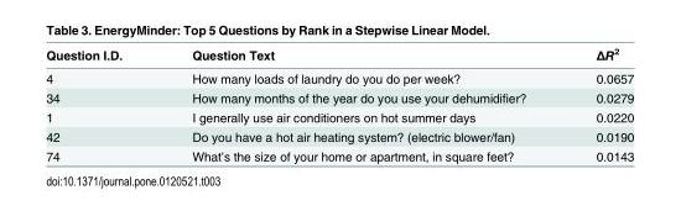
<table><thead><tr><td>Question I.D.</td><td>Question Text</td><td>ΔR<sup>2</sup></td></tr></thead><tbody><tr><td>4</td><td>How many loads of laundry do you do per week?</td><td>0.0657</td></tr><tr><td>34</td><td>How many months of the year do you use your dehumidifier?</td><td>0.0279</td></tr><tr><td>1</td><td>I generally use air conditioners on hot summer days</td><td>0.0220</td></tr><tr><td>42</td><td>Do you have a hot air heating system? (electric blower/fan)</td><td>0.0190</td></tr><tr><td>74</td><td>What’s the size of your home or apartment, in square feet?</td><td>0.0143</td></tr></tbody></table>